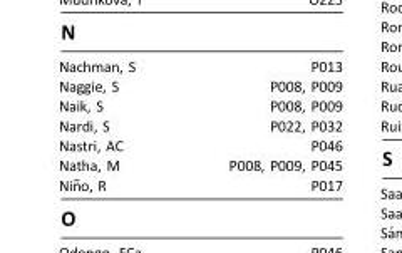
<table><tbody><tr><td>Nachman, S</td><td>P013</td></tr><tr><td>Naggie, S</td><td>P008, P009</td></tr><tr><td>Naik, S</td><td>P008, P009</td></tr><tr><td>Nardi, S</td><td>P022, P032</td></tr><tr><td>Nastri, AC</td><td>P046</td></tr><tr><td>Natha, M</td><td>P008, P009, P045</td></tr><tr><td>Nin˜o, R</td><td>P017</td></tr></tbody></table>